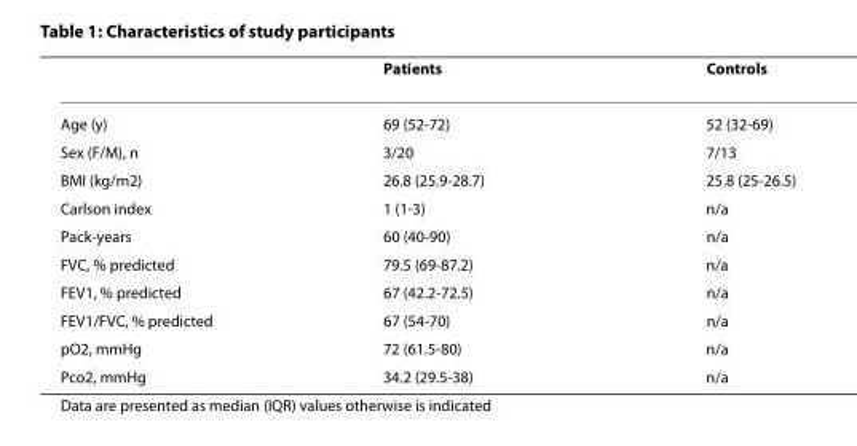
<table><thead><tr><td></td><td>Patients</td><td>Controls</td></tr></thead><tbody><tr><td>Age (y)</td><td>69 (52-72)</td><td>52 (32-69)</td></tr><tr><td>Sex (F/M), n</td><td>3/20</td><td>7/13</td></tr><tr><td>BMI (kg/m2)</td><td>26.8 (25.9-28.7)</td><td>25.8 (25-26.5)</td></tr><tr><td>Carlson index</td><td>1 (1-3)</td><td>n/a</td></tr><tr><td>Pack-years</td><td>60 (40-90)</td><td>n/a</td></tr><tr><td>FVC, % predicted</td><td>79.5 (69-87.2)</td><td>n/a</td></tr><tr><td>FEV1, % predicted</td><td>67 (42.2-72.5)</td><td>n/a</td></tr><tr><td>FEV1/FVC, % predicted</td><td>67 (54-70)</td><td>n/a</td></tr><tr><td>pO2, mmHg</td><td>72 (61.5-80)</td><td>n/a</td></tr><tr><td>Pco2, mmHg</td><td>34.2 (29.5-38)</td><td>n/a</td></tr></tbody></table>